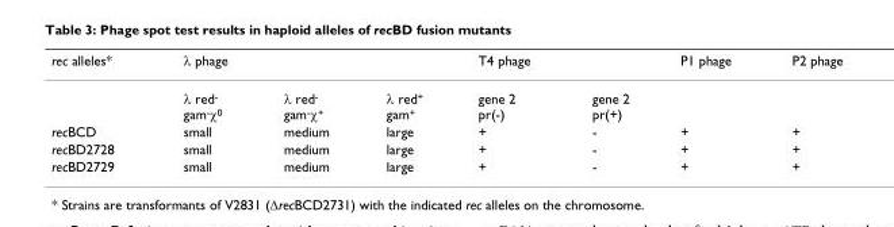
<table><thead><tr><td>rec alleles*</td><td>λ phage</td><td></td><td></td><td>T4 phage</td><td></td><td>P1 phage</td><td>P2 phage</td></tr></thead><tbody><tr><td></td><td>λ red<sup>-</sup> gam<sup>-</sup>χ<sup>0</sup></td><td>λ red<sup>-</sup> gam<sup>-</sup>χ<sup>+</sup></td><td>λ red<sup>+</sup> gam<sup>+</sup></td><td>gene 2 pr(-)</td><td>gene 2 pr(+)</td><td></td><td></td></tr><tr><td>recBCD</td><td>small</td><td>medium</td><td>large</td><td>+</td><td>-</td><td>+</td><td>+</td></tr><tr><td>recBD2728</td><td>small</td><td>medium</td><td>large</td><td>+</td><td>-</td><td>+</td><td>+</td></tr><tr><td>recBD2729</td><td>small</td><td>medium</td><td>large</td><td>+</td><td>-</td><td>+</td><td>+</td></tr></tbody></table>